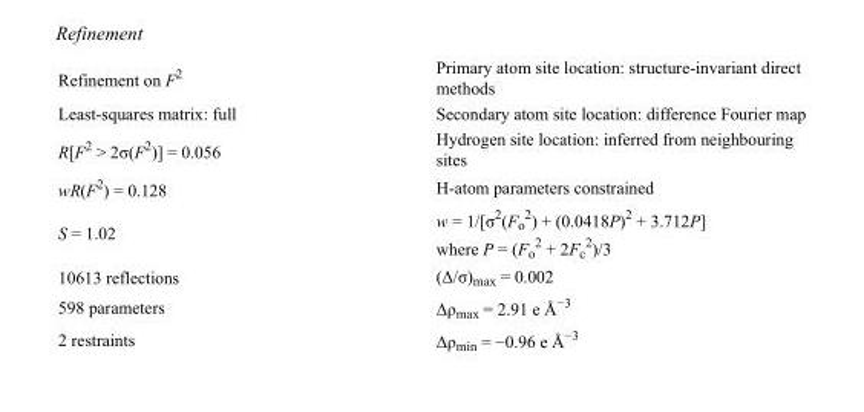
<table><tbody><tr><td>Refinement on F<sup>2</sup></td><td>Primary atom site location: structure-invariant direct methods</td></tr><tr><td>Least-squares matrix: full</td><td>Secondary atom site location: difference Fourier map</td></tr><tr><td>R[F<sup>2</sup> &gt; 2σ(F<sup>2</sup>)] = 0.056</td><td>Hydrogen site location: inferred from neighbouring sites</td></tr><tr><td>wR(F<sup>2</sup>) = 0.128</td><td>H-atom parameters constrained</td></tr><tr><td>S = 1.02</td><td>w = 1/[σ<sup>2</sup>(F<sub>o</sub> <sup>2</sup>) + (0.0418P)<sup>2</sup> + 3.712P] where P = (F<sub>o</sub> <sup>2</sup> + 2F<sub>c</sub> <sup>2</sup>)/3</td></tr><tr><td>10613 reflections</td><td>(Δ/σ)<sub>max</sub> = 0.002</td></tr><tr><td>598 parameters</td><td>Δρ<sub>max</sub> = 2.91 e Å<sup>−3</sup></td></tr><tr><td>2 restraints</td><td>Δρ<sub>min</sub> = −0.96 e Å<sup>−3</sup></td></tr></tbody></table>